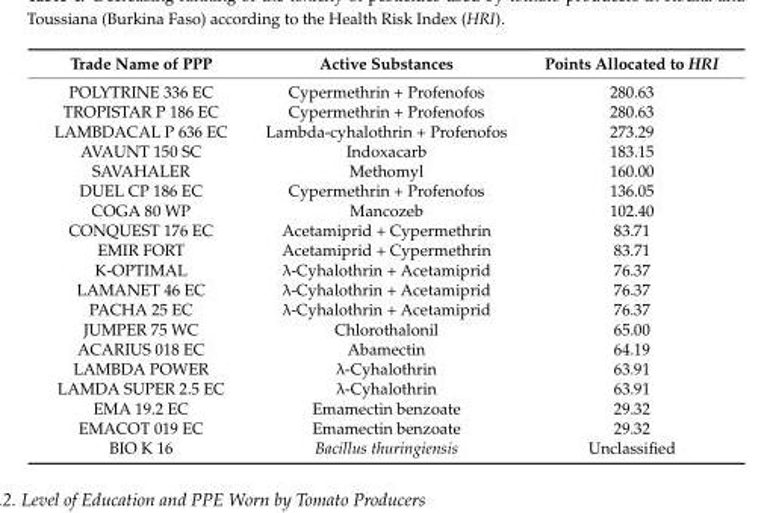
<table><thead><tr><td>Trade Name of PPP</td><td>Active Substances</td><td>Points Allocated to HRI</td></tr></thead><tbody><tr><td>POLYTRINE 336 EC</td><td>Cypermethrin + Profenofos</td><td>280.63</td></tr><tr><td>TROPISTAR P 186 EC</td><td>Cypermethrin + Profenofos</td><td>280.63</td></tr><tr><td>LAMBDACAL P 636 EC</td><td>Lambda-cyhalothrin + Profenofos</td><td>273.29</td></tr><tr><td>AVAUNT 150 SC</td><td>Indoxacarb</td><td>183.15</td></tr><tr><td>SAVAHALER</td><td>Methomyl</td><td>160.00</td></tr><tr><td>DUEL CP 186 EC</td><td>Cypermethrin + Profenofos</td><td>136.05</td></tr><tr><td>COGA 80 WP</td><td>Mancozeb</td><td>102.40</td></tr><tr><td>CONQUEST 176 EC</td><td>Acetamiprid + Cypermethrin</td><td>83.71</td></tr><tr><td>EMIR FORT</td><td>Acetamiprid + Cypermethrin</td><td>83.71</td></tr><tr><td>K-OPTIMAL</td><td>λ-Cyhalothrin + Acetamiprid</td><td>76.37</td></tr><tr><td>LAMANET 46 EC</td><td>λ-Cyhalothrin + Acetamiprid</td><td>76.37</td></tr><tr><td>PACHA 25 EC</td><td>λ-Cyhalothrin + Acetamiprid</td><td>76.37</td></tr><tr><td>JUMPER 75 WC</td><td>Chlorothalonil</td><td>65.00</td></tr><tr><td>ACARIUS 018 EC</td><td>Abamectin</td><td>64.19</td></tr><tr><td>LAMBDA POWER</td><td>λ-Cyhalothrin</td><td>63.91</td></tr><tr><td>LAMDA SUPER 2.5 EC</td><td>λ-Cyhalothrin</td><td>63.91</td></tr><tr><td>EMA 19.2 EC</td><td>Emamectin benzoate</td><td>29.32</td></tr><tr><td>EMACOT 019 EC</td><td>Emamectin benzoate</td><td>29.32</td></tr><tr><td>BIO K 16</td><td>Bacillus thuringiensis</td><td>Unclassified</td></tr></tbody></table>